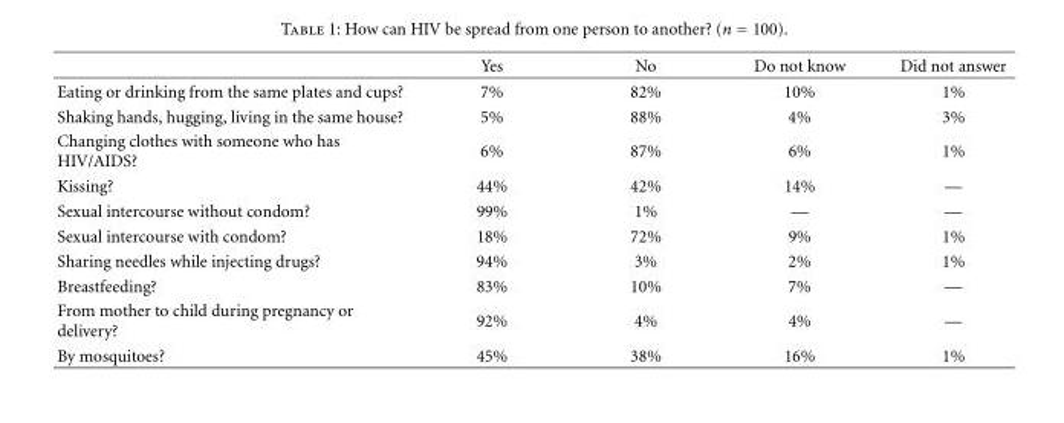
<table><thead><tr><td></td><td>Yes</td><td>No</td><td>Do not know</td><td>Did not answer</td></tr></thead><tbody><tr><td>Eating or drinking from the same plates and cups?</td><td>7%</td><td>82%</td><td>10%</td><td>1%</td></tr><tr><td>Shaking hands, hugging, living in the same house?</td><td>5%</td><td>88%</td><td>4%</td><td>3%</td></tr><tr><td>Changing clothes with someone who has HIV/AIDS?</td><td>6%</td><td>87%</td><td>6%</td><td>1%</td></tr><tr><td>Kissing?</td><td>44%</td><td>42%</td><td>14%</td><td>—</td></tr><tr><td>Sexual intercourse without condom?</td><td>99%</td><td>1%</td><td>—</td><td>—</td></tr><tr><td>Sexual intercourse with condom?</td><td>18%</td><td>72%</td><td>9%</td><td>1%</td></tr><tr><td>Sharing needles while injecting drugs?</td><td>94%</td><td>3%</td><td>2%</td><td>1%</td></tr><tr><td>Breastfeeding?</td><td>83%</td><td>10%</td><td>7%</td><td>—</td></tr><tr><td>From mother to child during pregnancy or delivery?</td><td>92%</td><td>4%</td><td>4%</td><td>—</td></tr><tr><td>By mosquitoes?</td><td>45%</td><td>38%</td><td>16%</td><td>1%</td></tr></tbody></table>